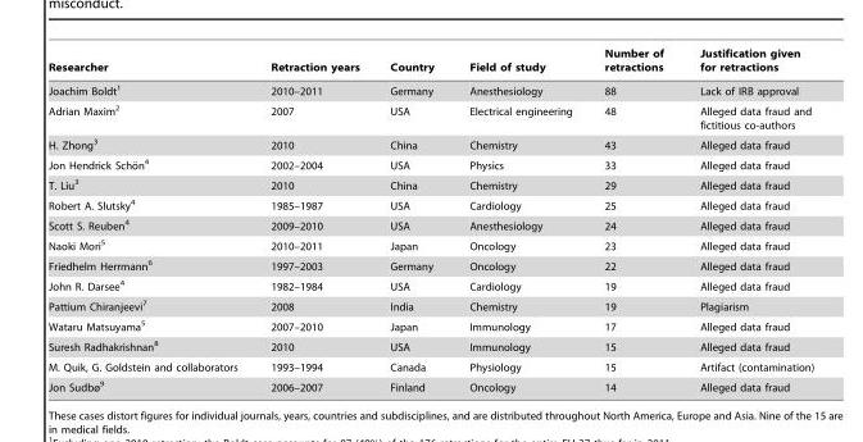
<table><thead><tr><td>Researcher</td><td>Retraction years</td><td>Country</td><td>Field of study</td><td>Number of retractions</td><td>Justification given for retractions</td></tr></thead><tbody><tr><td>Joachim Boldt<sup>1</sup></td><td>2010–2011</td><td>Germany</td><td>Anesthesiology</td><td>88</td><td>Lack of IRB approval</td></tr><tr><td>Adrian Maxim<sup>2</sup></td><td>2007</td><td>USA</td><td>Electrical engineering</td><td>48</td><td>Alleged data fraud and fictitious co-authors</td></tr><tr><td>H. Zhong<sup>3</sup></td><td>2010</td><td>China</td><td>Chemistry</td><td>43</td><td>Alleged data fraud</td></tr><tr><td>Jon Hendrick Scho¨n4</td><td>2002–2004</td><td>USA</td><td>Physics</td><td>33</td><td>Alleged data fraud</td></tr><tr><td>T. Liu<sup>3</sup></td><td>2010</td><td>China</td><td>Chemistry</td><td>29</td><td>Alleged data fraud</td></tr><tr><td>Robert A. Slutsky<sup>4</sup></td><td>1985–1987</td><td>USA</td><td>Cardiology</td><td>25</td><td>Alleged data fraud</td></tr><tr><td>Scott S. Reuben<sup>4</sup></td><td>2009–2010</td><td>USA</td><td>Anesthesiology</td><td>24</td><td>Alleged data fraud</td></tr><tr><td>Naoki Mori<sup>5</sup></td><td>2010–2011</td><td>Japan</td><td>Oncology</td><td>23</td><td>Alleged data fraud</td></tr><tr><td>Friedhelm Herrmann<sup>6</sup></td><td>1997–2003</td><td>Germany</td><td>Oncology</td><td>22</td><td>Alleged data fraud</td></tr><tr><td>John R. Darsee<sup>4</sup></td><td>1982–1984</td><td>USA</td><td>Cardiology</td><td>19</td><td>Alleged data fraud</td></tr><tr><td>Pattium Chiranjeevi<sup>7</sup></td><td>2008</td><td>India</td><td>Chemistry</td><td>19</td><td>Plagiarism</td></tr><tr><td>Wataru Matsuyama<sup>5</sup></td><td>2007–2010</td><td>Japan</td><td>Immunology</td><td>17</td><td>Alleged data fraud</td></tr><tr><td>Suresh Radhakrishnan<sup>8</sup></td><td>2010</td><td>USA</td><td>Immunology</td><td>15</td><td>Alleged data fraud</td></tr><tr><td>M. Quik, G. Goldstein and collaborators</td><td>1993–1994</td><td>Canada</td><td>Physiology</td><td>15</td><td>Artifact (contamination)</td></tr><tr><td>Jon Sudbø<sup>9</sup></td><td>2006–2007</td><td>Finland</td><td>Oncology</td><td>14</td><td>Alleged data fraud</td></tr></tbody></table>